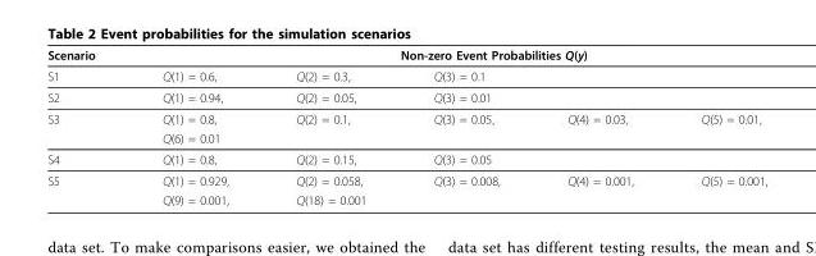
<table><thead><tr><td rowspan="2">Scenario S1</td><td colspan="5">Non-zero Event Probabilities Q(y)</td></tr><tr><td>Q(1) = 0.6,</td><td>Q(2) = 0.3,</td><td>Q(3) = 0.1</td><td></td><td></td></tr></thead><tbody><tr><td>S2</td><td>Q(1) = 0.94,</td><td>Q(2) = 0.05,</td><td>Q(3) = 0.01</td><td></td><td></td></tr><tr><td rowspan="2">S3</td><td>Q(1) = 0.8,</td><td>Q(2) = 0.1,</td><td>Q(3) = 0.05,</td><td>Q(4) = 0.03,</td><td>Q(5) = 0.01,</td></tr><tr><td>Q(6) = 0.01</td><td></td><td></td><td></td><td></td></tr><tr><td>S4</td><td>Q(1) = 0.8,</td><td>Q(2) = 0.15,</td><td>Q(3) = 0.05</td><td></td><td></td></tr><tr><td rowspan="2">S5</td><td>Q(1) = 0.929,</td><td>Q(2) = 0.058,</td><td>Q(3) = 0.008,</td><td>Q(4) = 0.001,</td><td>Q(5) = 0.001,</td></tr><tr><td>Q(9) = 0.001,</td><td>Q(18) = 0.001</td><td></td><td></td><td></td></tr></tbody></table>